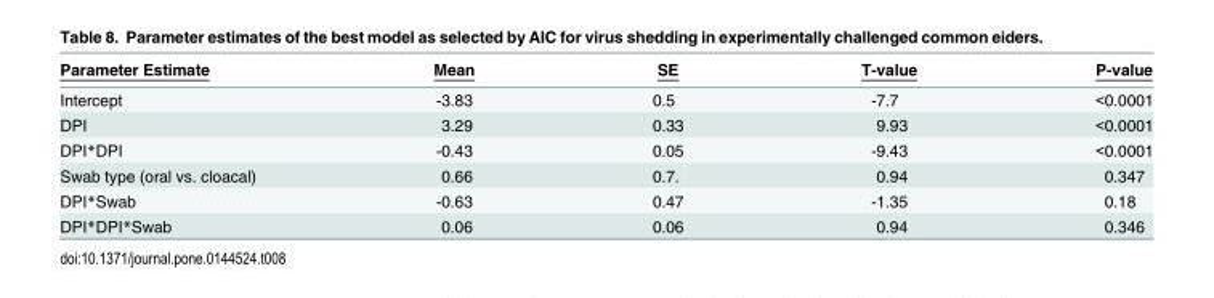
<table><thead><tr><td>Parameter Estimate</td><td>Mean</td><td>SE</td><td>T-value</td><td>P-value</td></tr></thead><tbody><tr><td>Intercept</td><td>-3.83</td><td>0.5</td><td>-7.7</td><td>&lt;0.0001</td></tr><tr><td>DPI</td><td>3.29</td><td>0.33</td><td>9.93</td><td>&lt;0.0001</td></tr><tr><td>DPI*DPI</td><td>-0.43</td><td>0.05</td><td>-9.43</td><td>&lt;0.0001</td></tr><tr><td>Swab type (oral vs. cloacal)</td><td>0.66</td><td>0.7.</td><td>0.94</td><td>0.347</td></tr><tr><td>DPI*Swab</td><td>-0.63</td><td>0.47</td><td>-1.35</td><td>0.18</td></tr><tr><td>DPI*DPI*Swab</td><td>0.06</td><td>0.06</td><td>0.94</td><td>0.346</td></tr></tbody></table>